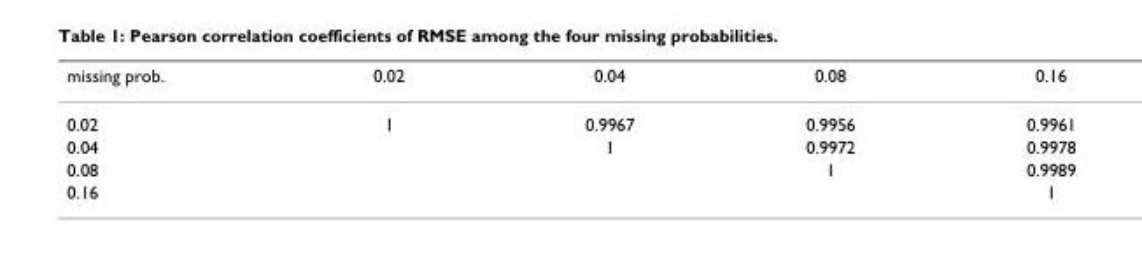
<table><thead><tr><td>missing prob.</td><td>0.02</td><td>0.04</td><td>0.08</td><td>0.16</td></tr></thead><tbody><tr><td>0.02</td><td>1</td><td>0.9967</td><td>0.9956</td><td>0.9961</td></tr><tr><td>0.04</td><td></td><td>1</td><td>0.9972</td><td>0.9978</td></tr><tr><td>0.08</td><td></td><td></td><td>1</td><td>0.9989</td></tr><tr><td>0.16</td><td></td><td></td><td></td><td>1</td></tr></tbody></table>